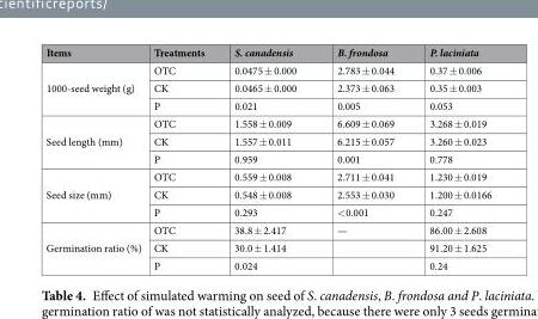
<table><thead><tr><td>Items</td><td>Treatments</td><td>S. canadensis</td><td>B. frondosa</td><td>P. laciniata</td></tr></thead><tbody><tr><td rowspan="3">1000-seed weight (g)</td><td>OTC</td><td>0.0475 ± 0.000</td><td>2.783 ± 0.044</td><td>0.37 ± 0.006</td></tr><tr><td>CK</td><td>0.0465 ± 0.000</td><td>2.373 ± 0.063</td><td>0.35 ± 0.003</td></tr><tr><td>P</td><td>0.021</td><td>0.005</td><td>0.053</td></tr><tr><td rowspan="3">Seed length (mm)</td><td>OTC</td><td>1.558 ± 0.009</td><td>6.609 ± 0.069</td><td>3.268 ± 0.019</td></tr><tr><td>CK</td><td>1.557 ± 0.011</td><td>6.215 ± 0.057</td><td>3.260 ± 0.023</td></tr><tr><td>P</td><td>0.959</td><td>0.001</td><td>0.778</td></tr><tr><td rowspan="3">Seed size (mm)</td><td>OTC</td><td>0.559 ± 0.008</td><td>2.711 ± 0.041</td><td>1.230 ± 0.019</td></tr><tr><td>CK</td><td>0.548 ± 0.008</td><td>2.553 ± 0.030</td><td>1.200 ± 0.0166</td></tr><tr><td>P</td><td>0.293</td><td>&lt;0.001</td><td>0.247</td></tr><tr><td rowspan="3">Germination ratio (%)</td><td>OTC</td><td>38.8 ± 2.417</td><td>—</td><td>86.00 ± 2.608</td></tr><tr><td>CK</td><td>30.0 ± 1.414</td><td></td><td>91.20 ± 1.625</td></tr><tr><td>P</td><td>0.024</td><td></td><td>0.24</td></tr></tbody></table>